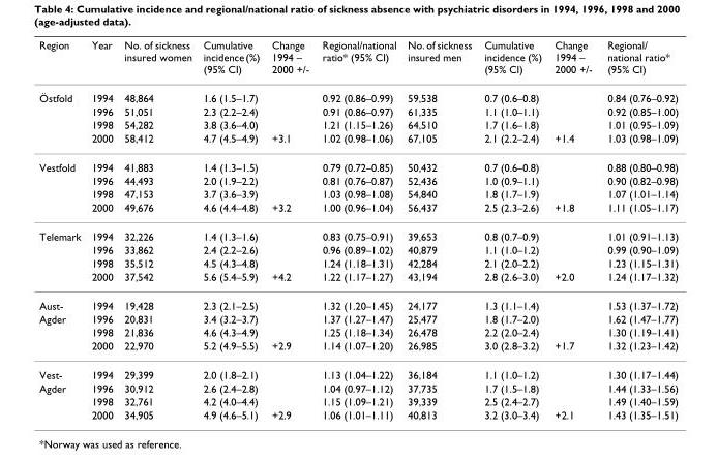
<table><thead><tr><td>Region</td><td>Year</td><td>No. of sickness insured women</td><td>Cumulative incidence (%) (95% CI)</td><td>Change 1994 – 2000 +/-</td><td>Regional/national ratio* (95% CI)</td><td>No. of sickness insured men</td><td>Cumulative incidence (%) (95% CI)</td><td>Change 1994 – 2000 +/-</td><td>Regional/ national ratio* (95% CI)</td></tr></thead><tbody><tr><td rowspan="4">Östfold</td><td>1994</td><td>48,864</td><td>1.6 (1.5–1.7)</td><td></td><td>0.92 (0.86–0.99)</td><td>59,538</td><td>0.7 (0.6–0.8)</td><td></td><td>0.84 (0.76–0.92)</td></tr><tr><td>1996</td><td>51,051</td><td>2.3 (2.2–2.4)</td><td></td><td>0.91 (0.86–0.97)</td><td>61,335</td><td>1.1 (1.0–1.1)</td><td></td><td>0.92 (0.85–1.00)</td></tr><tr><td>1998</td><td>54,282</td><td>3.8 (3.6–4.0)</td><td></td><td>1.21 (1.15–1.26)</td><td>64,510</td><td>1.7 (1.6–1.8)</td><td></td><td>1.01 (0.95–1.09)</td></tr><tr><td>2000</td><td>58,412</td><td>4.7 (4.5–4.9)</td><td>+3.1</td><td>1.02 (0.98–1.06)</td><td>67,105</td><td>2.1 (2.2–2.4)</td><td>+1.4</td><td>1.03 (0.98–1.09)</td></tr><tr><td rowspan="4">Vestfold</td><td>1994</td><td>41,883</td><td>1.4 (1.3–1.5)</td><td></td><td>0.79 (0.72–0.85)</td><td>50,432</td><td>0.7 (0.6–0.8)</td><td></td><td>0.88 (0.80–0.98)</td></tr><tr><td>1996</td><td>44,493</td><td>2.0 (1.9–2.2)</td><td></td><td>0.81 (0.76–0.87)</td><td>52,436</td><td>1.0 (0.9–1.1)</td><td></td><td>0.90 (0.82–0.98)</td></tr><tr><td>1998</td><td>47,153</td><td>3.7 (3.6–3.9)</td><td></td><td>1.03 (0.98–1.08)</td><td>54,840</td><td>1.8 (1.7–1.9)</td><td></td><td>1.07 (1.01–1.14)</td></tr><tr><td>2000</td><td>49,676</td><td>4.6 (4.4–4.8)</td><td>+3.2</td><td>1.00 (0.96–1.04)</td><td>56,437</td><td>2.5 (2.3–2.6)</td><td>+1.8</td><td>1.11 (1.05–1.17)</td></tr><tr><td rowspan="4">Telemark</td><td>1994</td><td>32,226</td><td>1.4 (1.3–1.6)</td><td></td><td>0.83 (0.75–0.91)</td><td>39,653</td><td>0.8 (0.7–0.9)</td><td></td><td>1.01 (0.91–1.13)</td></tr><tr><td>1996</td><td>33,862</td><td>2.4 (2.2–2.6)</td><td></td><td>0.96 (0.89–1.02)</td><td>40,879</td><td>1.1 (1.0–1.2)</td><td></td><td>0.99 (0.90–1.09)</td></tr><tr><td>1998</td><td>35,512</td><td>4.5 (4.3–4.8)</td><td></td><td>1.24 (1.18–1.31)</td><td>42,284</td><td>2.1 (2.0–2.2)</td><td></td><td>1.23 (1.15–1.31)</td></tr><tr><td>2000</td><td>37,542</td><td>5.6 (5.4–5.9)</td><td>+4.2</td><td>1.22 (1.17–1.27)</td><td>43,194</td><td>2.8 (2.6–3.0)</td><td>+2.0</td><td>1.24 (1.17–1.32)</td></tr><tr><td>Aust-</td><td>1994</td><td>19,428</td><td>2.3 (2.1–2.5)</td><td></td><td>1.32 (1.20–1.45)</td><td>24,177</td><td>1.3 (1.1–1.4)</td><td></td><td>1.53 (1.37–1.72)</td></tr><tr><td rowspan="3">Agder</td><td>1996</td><td>20,831</td><td>3.4 (3.2–3.7)</td><td></td><td>1.37 (1.27–1.47)</td><td>25,477</td><td>1.8 (1.7–2.0)</td><td></td><td>1.62 (1.47–1.77)</td></tr><tr><td>1998</td><td>21,836</td><td>4.6 (4.3–4.9)</td><td></td><td>1.25 (1.18–1.34)</td><td>26,478</td><td>2.2 (2.0–2.4)</td><td></td><td>1.30 (1.19–1.41)</td></tr><tr><td>2000</td><td>22,970</td><td>5.2 (4.9–5.5)</td><td>+2.9</td><td>1.14 (1.07–1.20)</td><td>26,985</td><td>3.0 (2.8–3.2)</td><td>+1.7</td><td>1.32 (1.23–1.42)</td></tr><tr><td>Vest-</td><td>1994</td><td>29,399</td><td>2.0 (1.8–2.1)</td><td></td><td>1.13 (1.04–1.22)</td><td>36,184</td><td>1.1 (1.0–1.2)</td><td></td><td>1.30 (1.17–1.44)</td></tr><tr><td rowspan="3">Agder</td><td>1996</td><td>30,912</td><td>2.6 (2.4–2.8)</td><td></td><td>1.04 (0.97–1.12)</td><td>37,735</td><td>1.7 (1.5–1.8)</td><td></td><td>1.44 (1.33–1.56)</td></tr><tr><td>1998</td><td>32,761</td><td>4.2 (4.0–4.4)</td><td></td><td>1.15 (1.09–1.21)</td><td>39,339</td><td>2.5 (2.4–2.7)</td><td></td><td>1.49 (1.40–1.59)</td></tr><tr><td>2000</td><td>34,905</td><td>4.9 (4.6–5.1)</td><td>+2.9</td><td>1.06 (1.01–1.11)</td><td>40,813</td><td>3.2 (3.0–3.4)</td><td>+2.1</td><td>1.43 (1.35–1.51)</td></tr></tbody></table>